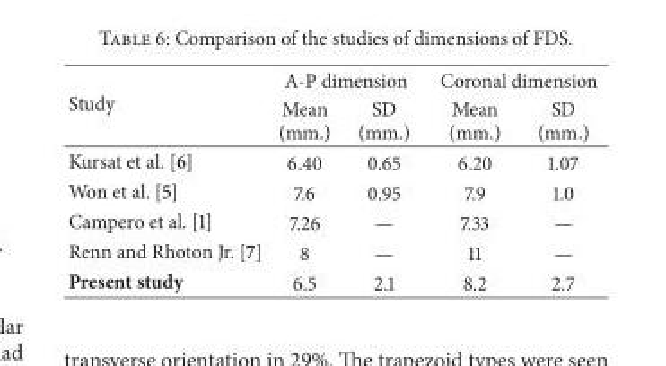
<table><thead><tr><td rowspan="2">Study</td><td colspan="2">A-P dimension</td><td colspan="2">Coronal dimension</td></tr><tr><td>Mean (mm.)</td><td>SD (mm.)</td><td>Mean (mm.)</td><td>SD (mm.)</td></tr></thead><tbody><tr><td>Kursat et al. [6]</td><td>6.40</td><td>0.65</td><td>6.20</td><td>1.07</td></tr><tr><td>Won et al. [5]</td><td>7.6</td><td>0.95</td><td>7.9</td><td>1.0</td></tr><tr><td>Campero et al. [1]</td><td>7.26</td><td>—</td><td>7.33</td><td>—</td></tr><tr><td>Renn and Rhoton Jr. [7]</td><td>8</td><td>—</td><td>11</td><td>—</td></tr><tr><td>Present study</td><td>6.5</td><td>2.1</td><td>8.2</td><td>2.7</td></tr></tbody></table>